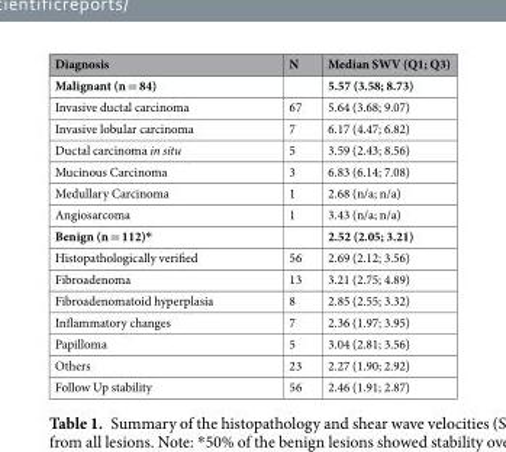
<table><thead><tr><td>Diagnosis</td><td>N</td><td>Median SWV (Q1; Q3)</td></tr></thead><tbody><tr><td>Malignant (n = 84)</td><td></td><td>5.57 (3.58; 8.73)</td></tr><tr><td>Invasive ductal carcinoma</td><td>67</td><td>5.64 (3.68; 9.07)</td></tr><tr><td>Invasive lobular carcinoma</td><td>7</td><td>6.17 (4.47; 6.82)</td></tr><tr><td>Ductal carcinoma in situ</td><td>5</td><td>3.59 (2.43; 8.56)</td></tr><tr><td>Mucinous Carcinoma</td><td>3</td><td>6.83 (6.14; 7.08)</td></tr><tr><td>Medullary Carcinoma</td><td>1</td><td>2.68 (n/a; n/a)</td></tr><tr><td>Angiosarcoma</td><td>1</td><td>3.43 (n/a; n/a)</td></tr><tr><td>Benign (n = 112)*</td><td></td><td>2.52 (2.05; 3.21)</td></tr><tr><td>Histopathologically verified</td><td>56</td><td>2.69 (2.12; 3.56)</td></tr><tr><td>Fibroadenoma</td><td>13</td><td>3.21 (2.75; 4.89)</td></tr><tr><td>Fibroadenomatoid hyperplasia</td><td>8</td><td>2.85 (2.55; 3.32)</td></tr><tr><td>Inflammatory changes</td><td>7</td><td>2.36 (1.97; 3.95)</td></tr><tr><td>Papilloma</td><td>5</td><td>3.04 (2.81; 3.56)</td></tr><tr><td>Others</td><td>23</td><td>2.27 (1.90; 2.92)</td></tr><tr><td>Follow Up stability</td><td>56</td><td>2.46 (1.91; 2.87)</td></tr></tbody></table>